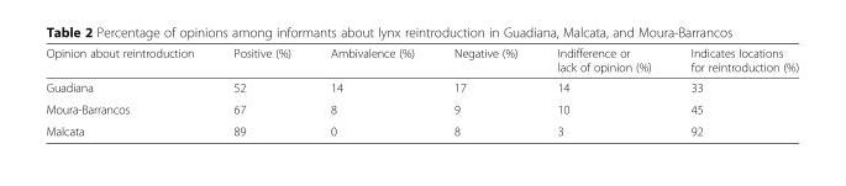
<table><thead><tr><td>Opinion about reintroduction</td><td>Positive (%)</td><td>Ambivalence (%)</td><td>Negative (%)</td><td>Indifference or lack of opinion (%)</td><td>Indicates locations for reintroduction (%)</td></tr></thead><tbody><tr><td>Guadiana</td><td>52</td><td>14</td><td>17</td><td>14</td><td>33</td></tr><tr><td>Moura-Barrancos</td><td>67</td><td>8</td><td>9</td><td>10</td><td>45</td></tr><tr><td>Malcata</td><td>89</td><td>0</td><td>8</td><td>3</td><td>92</td></tr></tbody></table>